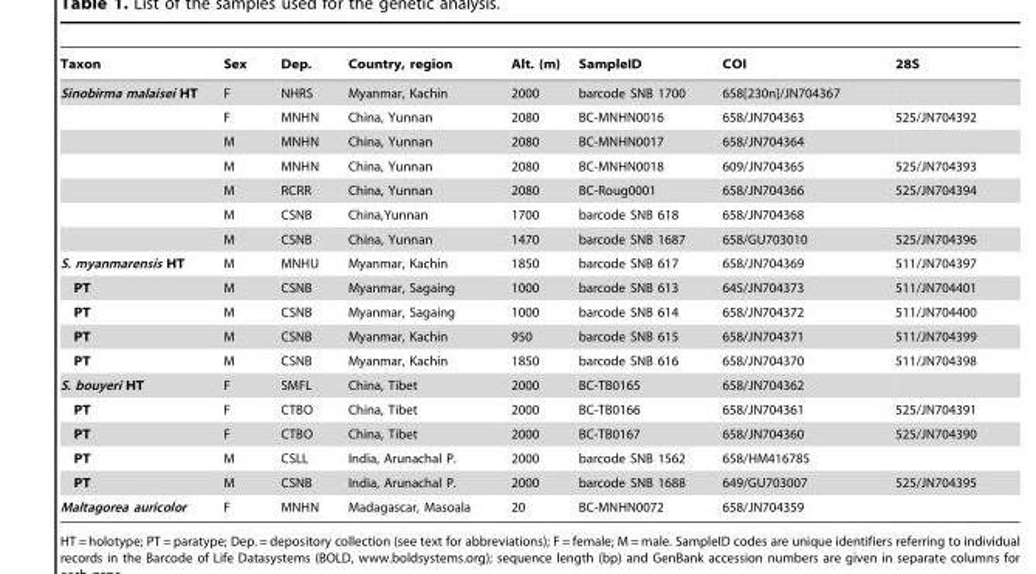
<table><thead><tr><td>Taxon</td><td>Sex</td><td>Dep.</td><td>Country, region</td><td>Alt. (m)</td><td>SampleID</td><td>COI</td><td>28S</td></tr></thead><tbody><tr><td rowspan="7">Sinobirma malaisei HT</td><td>F</td><td>NHRS</td><td>Myanmar, Kachin</td><td>2000</td><td>barcode SNB 1700</td><td>658[230n]/JN704367</td><td></td></tr><tr><td>F</td><td>MNHN</td><td>China, Yunnan</td><td>2080</td><td>BC-MNHN0016</td><td>658/JN704363</td><td>525/JN704392</td></tr><tr><td>M</td><td>MNHN</td><td>China, Yunnan</td><td>2080</td><td>BC-MNHN0017</td><td>658/JN704364</td><td></td></tr><tr><td>M</td><td>MNHN</td><td>China, Yunnan</td><td>2080</td><td>BC-MNHN0018</td><td>609/JN704365</td><td>525/JN704393</td></tr><tr><td>M</td><td>RCRR</td><td>China, Yunnan</td><td>2080</td><td>BC-Roug0001</td><td>658/JN704366</td><td>525/JN704394</td></tr><tr><td>M</td><td>CSNB</td><td>China,Yunnan</td><td>1700</td><td>barcode SNB 618</td><td>658/JN704368</td><td></td></tr><tr><td>M</td><td>CSNB</td><td>China, Yunnan</td><td>1470</td><td>barcode SNB 1687</td><td>658/GU703010</td><td>525/JN704396</td></tr><tr><td>S. myanmarensis HT</td><td>M</td><td>MNHU</td><td>Myanmar, Kachin</td><td>1850</td><td>barcode SNB 617</td><td>658/JN704369</td><td>511/JN704397</td></tr><tr><td>PT</td><td>M</td><td>CSNB</td><td>Myanmar, Sagaing</td><td>1000</td><td>barcode SNB 613</td><td>645/JN704373</td><td>511/JN704401</td></tr><tr><td>PT</td><td>M</td><td>CSNB</td><td>Myanmar, Sagaing</td><td>1000</td><td>barcode SNB 614</td><td>658/JN704372</td><td>511/JN704400</td></tr><tr><td>PT</td><td>M</td><td>CSNB</td><td>Myanmar, Kachin</td><td>950</td><td>barcode SNB 615</td><td>658/JN704371</td><td>511/JN704399</td></tr><tr><td>PT</td><td>M</td><td>CSNB</td><td>Myanmar, Kachin</td><td>1850</td><td>barcode SNB 616</td><td>658/JN704370</td><td>511/JN704398</td></tr><tr><td>S. bouyeri HT</td><td>F</td><td>SMFL</td><td>China, Tibet</td><td>2000</td><td>BC-TB0165</td><td>658/JN704362</td><td></td></tr><tr><td>PT</td><td>F</td><td>CTBO</td><td>China, Tibet</td><td>2000</td><td>BC-TB0166</td><td>658/JN704361</td><td>525/JN704391</td></tr><tr><td>PT</td><td>F</td><td>CTBO</td><td>China, Tibet</td><td>2000</td><td>BC-TB0167</td><td>658/JN704360</td><td>525/JN704390</td></tr><tr><td>PT</td><td>M</td><td>CSLL</td><td>India, Arunachal P.</td><td>2000</td><td>barcode SNB 1562</td><td>658/HM416785</td><td></td></tr><tr><td>PT</td><td>M</td><td>CSNB</td><td>India, Arunachal P.</td><td>2000</td><td>barcode SNB 1688</td><td>649/GU703007</td><td>525/JN704395</td></tr><tr><td>Maltagorea auricolor</td><td>F</td><td>MNHN</td><td>Madagascar, Masoala</td><td>20</td><td>BC-MNHN0072</td><td>658/JN704359</td><td></td></tr></tbody></table>